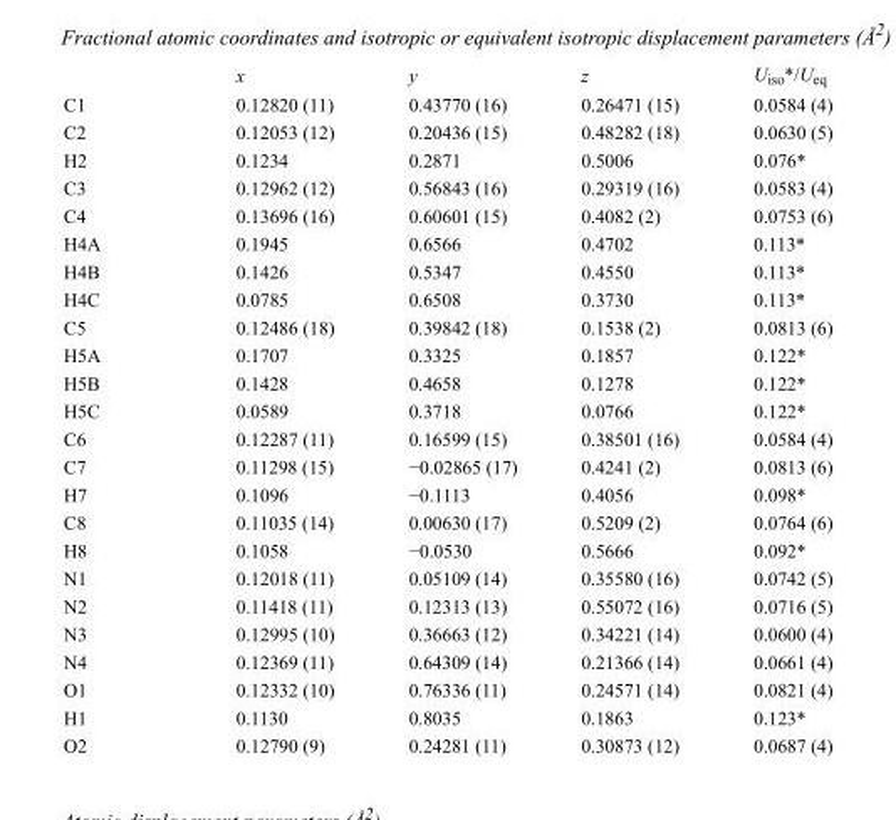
<table><thead><tr><td></td><td>x</td><td>y</td><td>z</td><td>U<sub>iso</sub>*/U<sub>eq</sub></td></tr></thead><tbody><tr><td>C1</td><td>0.12820 (11)</td><td>0.43770 (16)</td><td>0.26471 (15)</td><td>0.0584 (4)</td></tr><tr><td>C2</td><td>0.12053 (12)</td><td>0.20436 (15)</td><td>0.48282 (18)</td><td>0.0630 (5)</td></tr><tr><td>H2</td><td>0.1234</td><td>0.2871</td><td>0.5006</td><td>0.076*</td></tr><tr><td>C3</td><td>0.12962 (12)</td><td>0.56843 (16)</td><td>0.29319 (16)</td><td>0.0583 (4)</td></tr><tr><td>C4</td><td>0.13696 (16)</td><td>0.60601 (15)</td><td>0.4082 (2)</td><td>0.0753 (6)</td></tr><tr><td>H4A</td><td>0.1945</td><td>0.6566</td><td>0.4702</td><td>0.113*</td></tr><tr><td>H4B</td><td>0.1426</td><td>0.5347</td><td>0.4550</td><td>0.113*</td></tr><tr><td>H4C</td><td>0.0785</td><td>0.6508</td><td>0.3730</td><td>0.113*</td></tr><tr><td>C5</td><td>0.12486 (18)</td><td>0.39842 (18)</td><td>0.1538 (2)</td><td>0.0813 (6)</td></tr><tr><td>H5A</td><td>0.1707</td><td>0.3325</td><td>0.1857</td><td>0.122*</td></tr><tr><td>H5B</td><td>0.1428</td><td>0.4658</td><td>0.1278</td><td>0.122*</td></tr><tr><td>H5C</td><td>0.0589</td><td>0.3718</td><td>0.0766</td><td>0.122*</td></tr><tr><td>C6</td><td>0.12287 (11)</td><td>0.16599 (15)</td><td>0.38501 (16)</td><td>0.0584 (4)</td></tr><tr><td>C7</td><td>0.11298 (15)</td><td>−0.02865 (17)</td><td>0.4241 (2)</td><td>0.0813 (6)</td></tr><tr><td>H7</td><td>0.1096</td><td>−0.1113</td><td>0.4056</td><td>0.098*</td></tr><tr><td>C8</td><td>0.11035 (14)</td><td>0.00630 (17)</td><td>0.5209 (2)</td><td>0.0764 (6)</td></tr><tr><td>H8</td><td>0.1058</td><td>−0.0530</td><td>0.5666</td><td>0.092*</td></tr><tr><td>N1</td><td>0.12018 (11)</td><td>0.05109 (14)</td><td>0.35580 (16)</td><td>0.0742 (5)</td></tr><tr><td>N2</td><td>0.11418 (11)</td><td>0.12313 (13)</td><td>0.55072 (16)</td><td>0.0716 (5)</td></tr><tr><td>N3</td><td>0.12995 (10)</td><td>0.36663 (12)</td><td>0.34221 (14)</td><td>0.0600 (4)</td></tr><tr><td>N4</td><td>0.12369 (11)</td><td>0.64309 (14)</td><td>0.21366 (14)</td><td>0.0661 (4)</td></tr><tr><td>O1</td><td>0.12332 (10)</td><td>0.76336 (11)</td><td>0.24571 (14)</td><td>0.0821 (4)</td></tr><tr><td>H1</td><td>0.1130</td><td>0.8035</td><td>0.1863</td><td>0.123*</td></tr><tr><td>O2</td><td>0.12790 (9)</td><td>0.24281 (11)</td><td>0.30873 (12)</td><td>0.0687 (4)</td></tr></tbody></table>